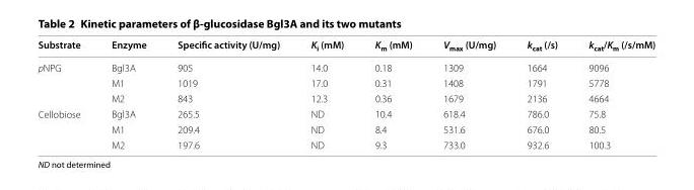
<table><thead><tr><td>Substrate</td><td>Enzyme</td><td>Specific activity (U/mg)</td><td>K<sub>i</sub> (mM)</td><td>K<sub>m</sub> (mM)</td><td>V<sub>max</sub> (U/mg)</td><td>k<sub>cat</sub> (/s)</td><td>k<sub>cat</sub>/K<sub>m</sub> (/s/mM)</td></tr></thead><tbody><tr><td rowspan="3">pNPG</td><td>Bgl3A</td><td>905</td><td>14.0</td><td>0.18</td><td>1309</td><td>1664</td><td>9096</td></tr><tr><td>M1</td><td>1019</td><td>17.0</td><td>0.31</td><td>1408</td><td>1791</td><td>5778</td></tr><tr><td>M2</td><td>843</td><td>12.3</td><td>0.36</td><td>1679</td><td>2136</td><td>4664</td></tr><tr><td rowspan="3">Cellobiose</td><td>Bgl3A</td><td>265.5</td><td>ND</td><td>10.4</td><td>618.4</td><td>786.0</td><td>75.8</td></tr><tr><td>M1</td><td>209.4</td><td>ND</td><td>8.4</td><td>531.6</td><td>676.0</td><td>80.5</td></tr><tr><td>M2</td><td>197.6</td><td>ND</td><td>9.3</td><td>733.0</td><td>932.6</td><td>100.3</td></tr></tbody></table>